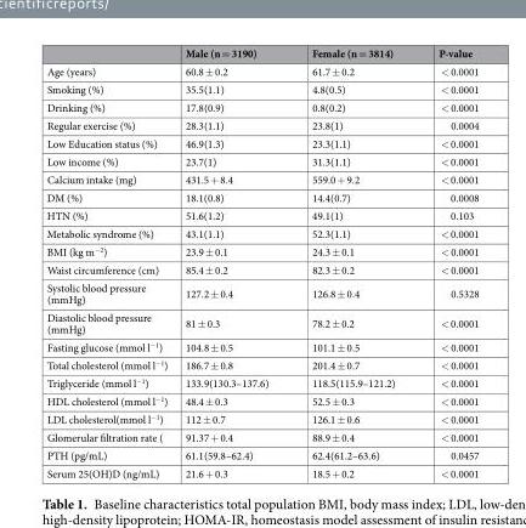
<table><thead><tr><td></td><td>Male (n = 3190)</td><td>Female (n = 3814)</td><td>P-value</td></tr></thead><tbody><tr><td>Age (years)</td><td>60.8 ± 0.2</td><td>61.7 ± 0.2</td><td>&lt; 0.0001</td></tr><tr><td>Smoking (%)</td><td>35.5(1.1)</td><td>4.8(0.5)</td><td>&lt; 0.0001</td></tr><tr><td>Drinking (%)</td><td>17.8(0.9)</td><td>0.8(0.2)</td><td>&lt; 0.0001</td></tr><tr><td>Regular exercise (%)</td><td>28.3(1.1)</td><td>23.8(1)</td><td>0.0004</td></tr><tr><td>Low Education status (%)</td><td>46.9(1.3)</td><td>23.3(1.1)</td><td>&lt; 0.0001</td></tr><tr><td>Low income (%)</td><td>23.7(1)</td><td>31.3(1.1)</td><td>&lt; 0.0001</td></tr><tr><td>Calcium intake (mg)</td><td>431.5 + 8.4</td><td>559.0 + 9.2</td><td>&lt; 0.0001</td></tr><tr><td>DM (%)</td><td>18.1(0.8)</td><td>14.4(0.7)</td><td>0.0008</td></tr><tr><td>HTN (%)</td><td>51.6(1.2)</td><td>49.1(1)</td><td>0.103</td></tr><tr><td>Metabolic syndrome (%)</td><td>43.1(1.1)</td><td>52.3(1.1)</td><td>&lt; 0.0001</td></tr><tr><td>BMI (kg m<sup>−2</sup>)</td><td>23.9 ± 0.1</td><td>24.3 ± 0.1</td><td>&lt; 0.0001</td></tr><tr><td>Waist circumference (cm)</td><td>85.4 ± 0.2</td><td>82.3 ± 0.2</td><td>&lt; 0.0001</td></tr><tr><td>Systolic blood pressure (mmHg)</td><td>127.2 ± 0.4</td><td>126.8 ± 0.4</td><td>0.5328</td></tr><tr><td>Diastolic blood pressure (mmHg)</td><td>81 ± 0.3</td><td>78.2 ± 0.2</td><td>&lt; 0.0001</td></tr><tr><td>Fasting glucose (mmol l<sup>−1</sup>)</td><td>104.8 ± 0.5</td><td>101.1 ± 0.5</td><td>&lt; 0.0001</td></tr><tr><td>Total cholesterol (mmol l<sup>−1</sup>)</td><td>186.7 ± 0.8</td><td>201.4 ± 0.7</td><td>&lt; 0.0001</td></tr><tr><td>Triglyceride (mmol l<sup>−1</sup>)</td><td>133.9(130.3–137.6)</td><td>118.5(115.9–121.2)</td><td>&lt; 0.0001</td></tr><tr><td>HDL cholesterol (mmol l<sup>−1</sup>)</td><td>48.4 ± 0.3</td><td>52.5 ± 0.3</td><td>&lt; 0.0001</td></tr><tr><td>LDL cholesterol(mmol l<sup>−1</sup>)</td><td>112 ± 0.7</td><td>126.1 ± 0.6</td><td>&lt; 0.0001</td></tr><tr><td>Glomerular filtration rate (</td><td>91.37 + 0.4</td><td>88.9 ± 0.4</td><td>&lt; 0.0001</td></tr><tr><td>PTH (pg/mL)</td><td>61.1(59.8–62.4)</td><td>62.4(61.2–63.6)</td><td>0.0457</td></tr><tr><td>Serum 25(OH)D (ng/mL)</td><td>21.6 + 0.3</td><td>18.5 + 0.2</td><td>&lt; 0.0001</td></tr></tbody></table>